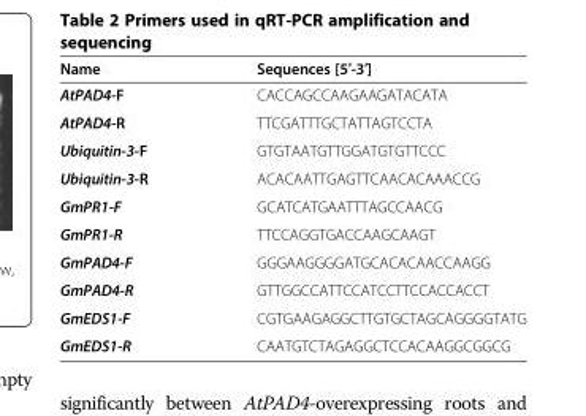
<table><thead><tr><td>Name</td><td>Sequences [5′-3′]</td></tr></thead><tbody><tr><td>AtPAD4-F</td><td>CACCAGCCAAGAAGATACATA</td></tr><tr><td>AtPAD4-R</td><td>TTCGATTTGCTATTAGTCCTA</td></tr><tr><td>Ubiquitin-3-F</td><td>GTGTAATGTTGGATGTGTTCCC</td></tr><tr><td>Ubiquitin-3-R</td><td>ACACAATTGAGTTCAACACAAACCG</td></tr><tr><td>GmPR1-F</td><td>GCATCATGAATTTAGCCAACG</td></tr><tr><td>GmPR1-R</td><td>TTCCAGGTGACCAAGCAAGT</td></tr><tr><td>GmPAD4-F</td><td>GGGAAGGGGATGCACACAACCAAGG</td></tr><tr><td>GmPAD4-R</td><td>GTTGGCCATTCCATCCTTCCACCACCT</td></tr><tr><td>GmEDS1-F</td><td>CGTGAAGAGGCTTGTGCTAGCAGGGGTATG</td></tr><tr><td>GmEDS1-R</td><td>CAATGTCTAGAGGCTCCACAAGGCGGCG</td></tr></tbody></table>